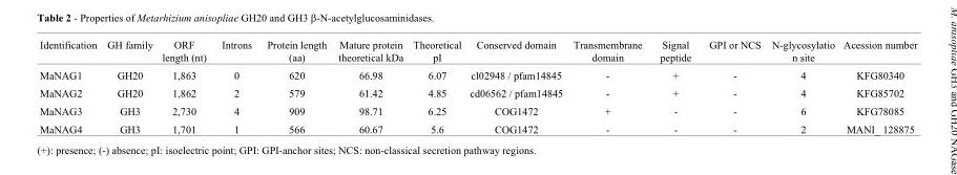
<table><thead><tr><td>Identification</td><td>GH family</td><td>ORF length (nt)</td><td>Introns</td><td>Protein length (aa)</td><td>Mature protein theoretical kDa</td><td>Theoretical pI</td><td>Conserved domain</td><td>Transmembrane domain</td><td>Signal peptide</td><td>GPI or NCS</td><td>N-glycosylatio n site</td><td>Acession number</td></tr></thead><tbody><tr><td>MaNAG1</td><td>GH20</td><td>1,863</td><td>0</td><td>620</td><td>66.98</td><td>6.07</td><td>cl02948 / pfam14845</td><td>-</td><td>+</td><td>-</td><td>4</td><td>KFG80340</td></tr><tr><td>MaNAG2</td><td>GH20</td><td>1,862</td><td>2</td><td>579</td><td>61.42</td><td>4.85</td><td>cd06562 / pfam14845</td><td>-</td><td>+</td><td>-</td><td>4</td><td>KFG85702</td></tr><tr><td>MaNAG3</td><td>GH3</td><td>2,730</td><td>4</td><td>909</td><td>98.71</td><td>6.25</td><td>COG1472</td><td>+</td><td>-</td><td>-</td><td>6</td><td>KFG78085</td></tr><tr><td>MaNAG4</td><td>GH3</td><td>1,701</td><td>1</td><td>566</td><td>60.67</td><td>5.6</td><td>COG1472</td><td>-</td><td>-</td><td>-</td><td>2</td><td>MANI_ 128875</td></tr></tbody></table>